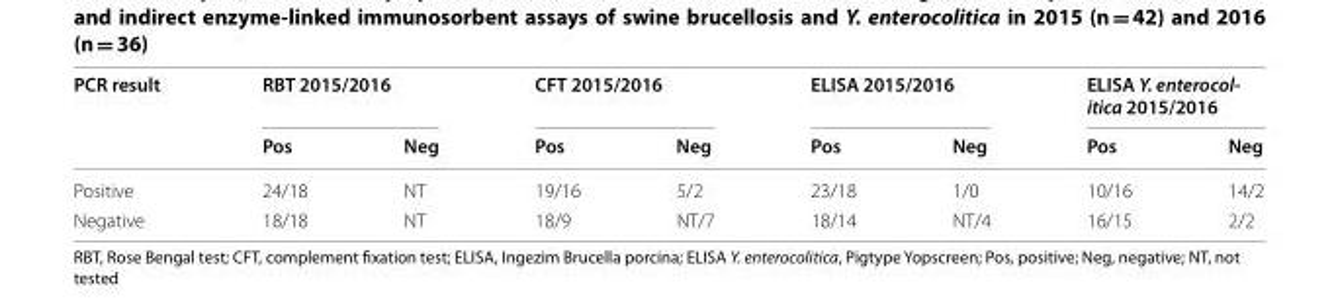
<table><thead><tr><td rowspan="2">PCR result</td><td colspan="2">RBT 2015/2016</td><td colspan="2">CFT 2015/2016</td><td colspan="2">ELISA 2015/2016</td><td colspan="2">ELISA Y. enterocol- itica 2015/2016</td></tr><tr><td>Pos</td><td>Neg</td><td>Pos</td><td>Neg</td><td>Pos</td><td>Neg</td><td>Pos</td><td>Neg</td></tr></thead><tbody><tr><td>Positive</td><td>24/18</td><td>NT</td><td>19/16</td><td>5/2</td><td>23/18</td><td>1/0</td><td>10/16</td><td>14/2</td></tr><tr><td>Negative</td><td>18/18</td><td>NT</td><td>18/9</td><td>NT/7</td><td>18/14</td><td>NT/4</td><td>16/15</td><td>2/2</td></tr></tbody></table>